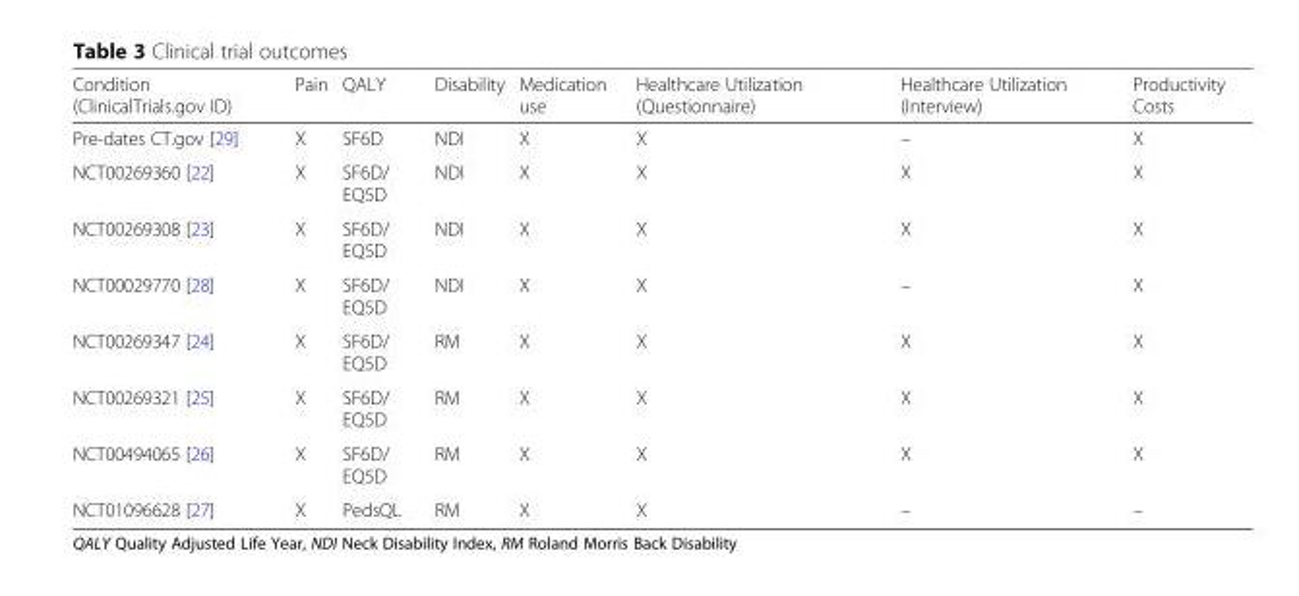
<table><thead><tr><td>Condition (ClinicalTrials.gov ID)</td><td>Pain</td><td>QALY</td><td>Disability</td><td>Medication use</td><td>Healthcare Utilization (Questionnaire)</td><td>Healthcare Utilization (Interview)</td><td>Productivity Costs</td></tr></thead><tbody><tr><td>Pre-dates CT.gov [29]</td><td>X</td><td>SF6D</td><td>NDI</td><td>X</td><td>X</td><td>–</td><td>X</td></tr><tr><td>NCT00269360 [22]</td><td>X</td><td>SF6D/ EQ5D</td><td>NDI</td><td>X</td><td>X</td><td>X</td><td>X</td></tr><tr><td>NCT00269308 [23]</td><td>X</td><td>SF6D/ EQ5D</td><td>NDI</td><td>X</td><td>X</td><td>X</td><td>X</td></tr><tr><td>NCT00029770 [28]</td><td>X</td><td>SF6D/ EQ5D</td><td>NDI</td><td>X</td><td>X</td><td>–</td><td>X</td></tr><tr><td>NCT00269347 [24]</td><td>X</td><td>SF6D/ EQ5D</td><td>RM</td><td>X</td><td>X</td><td>X</td><td>X</td></tr><tr><td>NCT00269321 [25]</td><td>X</td><td>SF6D/ EQ5D</td><td>RM</td><td>X</td><td>X</td><td>X</td><td>X</td></tr><tr><td>NCT00494065 [26]</td><td>X</td><td>SF6D/ EQ5D</td><td>RM</td><td>X</td><td>X</td><td>X</td><td>X</td></tr><tr><td>NCT01096628 [27]</td><td>X</td><td>PedsQL</td><td>RM</td><td>X</td><td>X</td><td>–</td><td>–</td></tr></tbody></table>